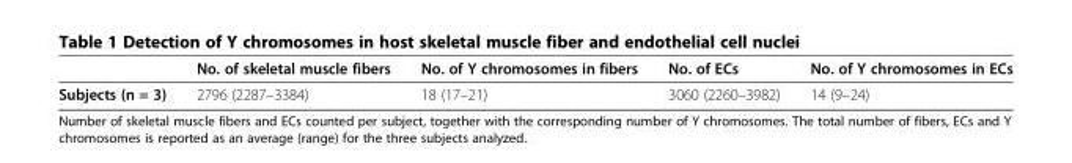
<table><thead><tr><td></td><td>No. of skeletal muscle fibers</td><td>No. of Y chromosomes in fibers</td><td>No. of ECs</td><td>No. of Y chromosomes in ECs</td></tr></thead><tbody><tr><td>Subjects (n = 3)</td><td>2796 (2287–3384)</td><td>18 (17–21)</td><td>3060 (2260–3982)</td><td>14 (9–24)</td></tr></tbody></table>